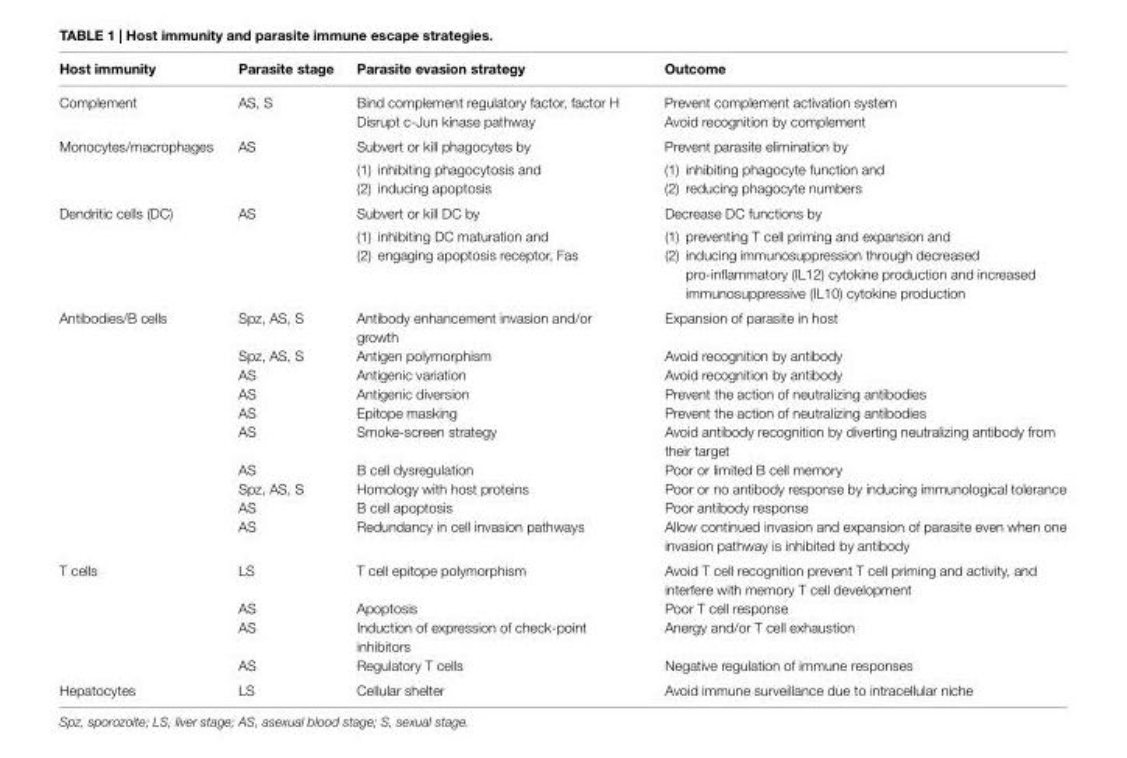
<table><thead><tr><td>Host immunity</td><td>Parasite stage</td><td>Parasite evasion strategy</td><td>Outcome</td></tr></thead><tbody><tr><td>Complement</td><td>AS, S</td><td>Bind complement regulatory factor, factor H Disrupt c-Jun kinase pathway</td><td>Prevent complement activation system Avoid recognition by complement</td></tr><tr><td>Monocytes/macrophages</td><td>AS</td><td>Subvert or kill phagocytes by (1) inhibiting phagocytosis and (2) inducing apoptosis</td><td>Prevent parasite elimination by (1) inhibiting phagocyte function and (2) reducing phagocyte numbers</td></tr><tr><td>Dendritic cells (DC)</td><td>AS</td><td>Subvert or kill DC by (1) inhibiting DC maturation and (2) engaging apoptosis receptor, Fas</td><td>Decrease DC functions by (1) preventing T cell priming and expansion and (2) inducing immunosuppression through decreased pro-inflammatory (IL12) cytokine production and increased immunosuppressive (IL10) cytokine production</td></tr><tr><td>Antibodies/B cells</td><td>Spz, AS, S Spz, AS, S AS AS AS AS AS Spz, AS, S AS AS</td><td>Antibody enhancement invasion and/or growth Antigen polymorphism Antigenic variation Antigenic diversion Epitope masking Smoke-screen strategy B cell dysregulation Homology with host proteins B cell apoptosis Redundancy in cell invasion pathways</td><td>Expansion of parasite in host Avoid recognition by antibody Avoid recognition by antibody Prevent the action of neutralizing antibodies Prevent the action of neutralizing antibodies Avoid antibody recognition by diverting neutralizing antibody from their target Poor or limited B cell memory Poor or no antibody response by inducing immunological tolerance Poor antibody response Allow continued invasion and expansion of parasite even when one invasion pathway is inhibited by antibody</td></tr><tr><td>T cells</td><td>LS AS AS AS</td><td>T cell epitope polymorphism Apoptosis Induction of expression of check-point inhibitors Regulatory T cells</td><td>Avoid T cell recognition prevent T cell priming and activity, and interfere with memory T cell development Poor T cell response Anergy and/or T cell exhaustion Negative regulation of immune responses</td></tr><tr><td>Hepatocytes</td><td>LS</td><td>Cellular shelter</td><td>Avoid immune surveillance due to intracellular niche</td></tr></tbody></table>